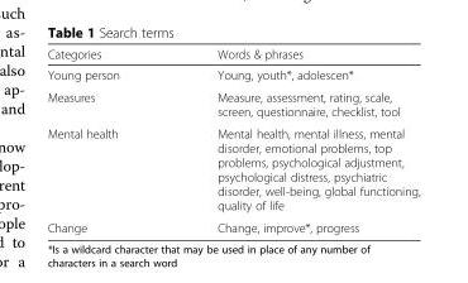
<table><thead><tr><td>Categories</td><td>Words &amp; phrases</td></tr></thead><tbody><tr><td>Young person</td><td>Young, youth*, adolescen*</td></tr><tr><td>Measures</td><td>Measure, assessment, rating, scale, screen, questionnaire, checklist, tool</td></tr><tr><td>Mental health</td><td>Mental health, mental illness, mental disorder, emotional problems, top problems, psychological adjustment, psychological distress, psychiatric disorder, well-being, global functioning, quality of life</td></tr><tr><td>Change</td><td>Change, improve*, progress</td></tr></tbody></table>